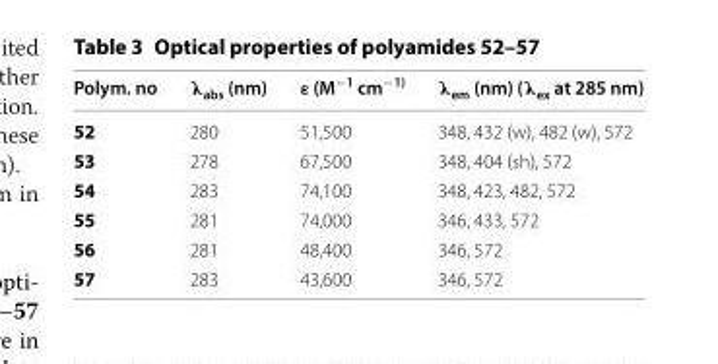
<table><thead><tr><td>Polym. no</td><td>λ<sub>abs</sub> (nm)</td><td>ε (M<sup>−1</sup> cm<sup>−1)</sup></td><td>λ<sub>em</sub> (nm) (λ<sub>ex</sub> at 285 nm)</td></tr></thead><tbody><tr><td>52</td><td>280</td><td>51,500</td><td>348, 432 (w), 482 (w), 572</td></tr><tr><td>53</td><td>278</td><td>67,500</td><td>348, 404 (sh), 572</td></tr><tr><td>54</td><td>283</td><td>74,100</td><td>348, 423, 482, 572</td></tr><tr><td>55</td><td>281</td><td>74,000</td><td>346, 433, 572</td></tr><tr><td>56</td><td>281</td><td>48,400</td><td>346, 572</td></tr><tr><td>57</td><td>283</td><td>43,600</td><td>346, 572</td></tr></tbody></table>